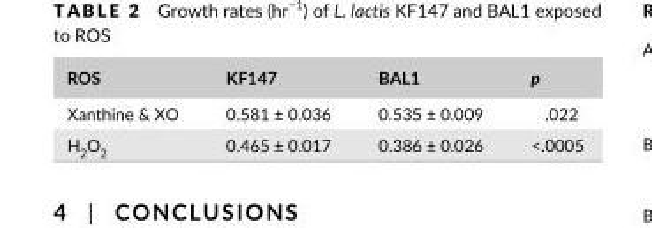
<table><thead><tr><td>ROS</td><td>KF147</td><td>BAL1</td><td>p</td></tr></thead><tbody><tr><td>Xanthine &amp; XO</td><td>0.581 ± 0.036</td><td>0.535 ± 0.009</td><td>.022</td></tr><tr><td>H<sub>2</sub>O<sub>2</sub></td><td>0.465 ± 0.017</td><td>0.386 ± 0.026</td><td>&lt;.0005</td></tr></tbody></table>